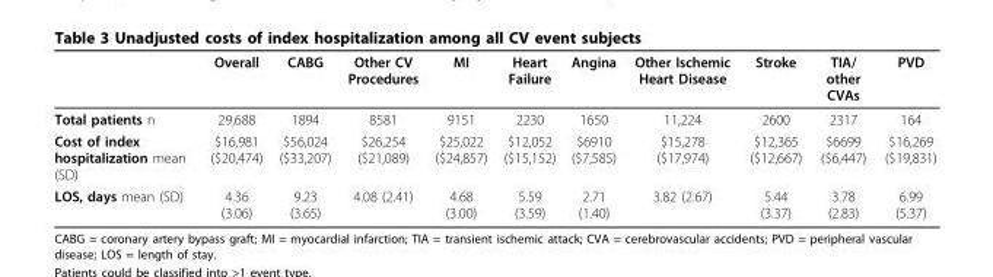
<table><thead><tr><td></td><td>Overall</td><td>CABG</td><td>Other CV Procedures</td><td>MI</td><td>Heart Failure</td><td>Angina</td><td>Other Ischemic Heart Disease</td><td>Stroke</td><td>TIA/ other CVAs</td><td>PVD</td></tr></thead><tbody><tr><td>Total patients n</td><td>29,688</td><td>1894</td><td>8581</td><td>9151</td><td>2230</td><td>1650</td><td>11,224</td><td>2600</td><td>2317</td><td>164</td></tr><tr><td>Cost of index hospitalization mean (SD)</td><td>$16,981 ($20,474)</td><td>$56,024 ($33,207)</td><td>$26,254 ($21,089)</td><td>$25,022 ($24,857)</td><td>$12,052 ($15,152)</td><td>$6910 ($7,585)</td><td>$15,278 ($17,974)</td><td>$12,365 ($12,667)</td><td>$6699 ($6,447)</td><td>$16,269 ($19,831)</td></tr><tr><td>LOS, days mean (SD)</td><td>4.36 (3.06)</td><td>9.23 (3.65)</td><td>4.08 (2.41)</td><td>4.68 (3.00)</td><td>5.59 (3.59)</td><td>2.71 (1.40)</td><td>3.82 (2.67)</td><td>5.44 (3.37)</td><td>3.78 (2.83)</td><td>6.99 (5.37)</td></tr></tbody></table>